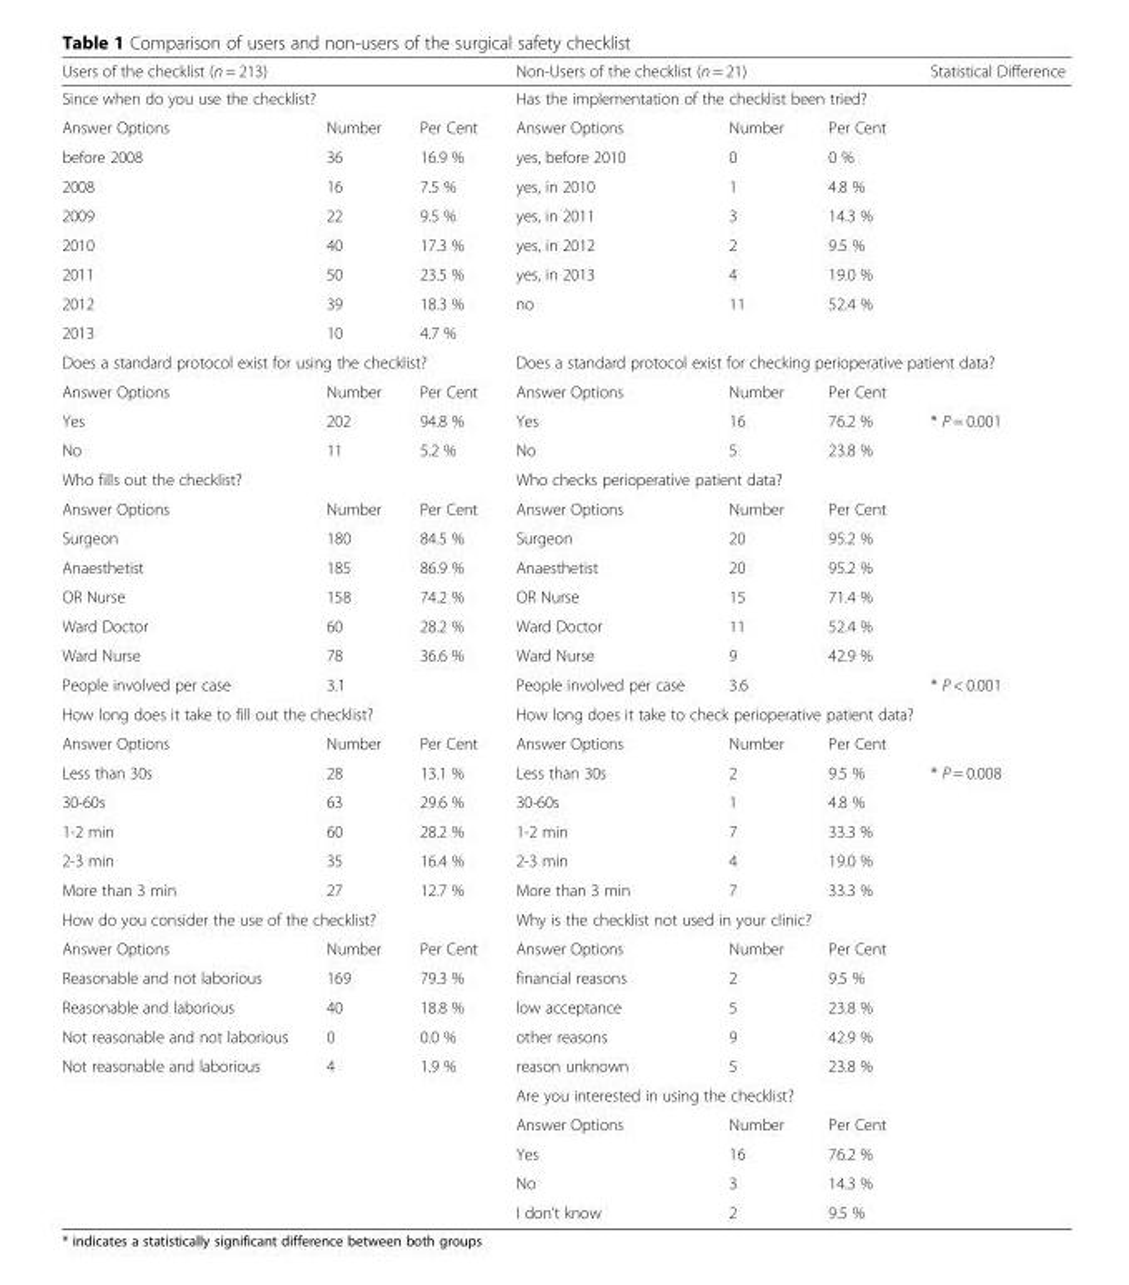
<table><thead><tr><td rowspan="2" colspan="3">Users of the checklist (n = 213) Since when do you use the checklist?</td><td colspan="3">Non-Users of the checklist (n = 21)</td><td>Statistical Difference</td></tr><tr><td colspan="4">Has the implementation of the checklist been tried?</td></tr><tr><td>Answer Options</td><td>Number</td><td>Per Cent</td><td>Answer Options</td><td>Number</td><td>Per Cent</td><td></td></tr></thead><tbody><tr><td>before 2008</td><td>36</td><td>16.9 %</td><td>yes, before 2010</td><td>0</td><td>0 %</td><td></td></tr><tr><td>2008</td><td>16</td><td>7.5 %</td><td>yes, in 2010</td><td>1</td><td>4.8 %</td><td></td></tr><tr><td>2009</td><td>22</td><td>9.5 %</td><td>yes, in 2011</td><td>3</td><td>14.3 %</td><td></td></tr><tr><td>2010</td><td>40</td><td>17.3 %</td><td>yes, in 2012</td><td>2</td><td>9.5 %</td><td></td></tr><tr><td>2011</td><td>50</td><td>23.5 %</td><td>yes, in 2013</td><td>4</td><td>19.0 %</td><td></td></tr><tr><td>2012</td><td>39</td><td>18.3 %</td><td>no</td><td>11</td><td>52.4 %</td><td></td></tr><tr><td>2013</td><td>10</td><td>4.7 %</td><td></td><td></td><td></td><td></td></tr><tr><td colspan="3">Does a standard protocol exist for using the checklist?</td><td colspan="4">Does a standard protocol exist for checking perioperative patient data?</td></tr><tr><td>Answer Options</td><td>Number</td><td>Per Cent</td><td>Answer Options</td><td>Number</td><td>Per Cent</td><td></td></tr><tr><td>Yes</td><td>202</td><td>94.8 %</td><td>Yes</td><td>16</td><td>76.2 %</td><td rowspan="2">* P = 0.001</td></tr><tr><td>No</td><td>11</td><td>5.2 %</td><td>No</td><td>5</td><td>23.8 %</td></tr><tr><td colspan="2">Who fills out the checklist?</td><td></td><td colspan="3">Who checks perioperative patient data?</td><td></td></tr><tr><td>Answer Options</td><td>Number</td><td>Per Cent</td><td>Answer Options</td><td>Number</td><td>Per Cent</td><td></td></tr><tr><td>Surgeon</td><td>180</td><td>84.5 %</td><td>Surgeon</td><td>20</td><td>95.2 %</td><td></td></tr><tr><td>Anaesthetist</td><td>185</td><td>86.9 %</td><td>Anaesthetist</td><td>20</td><td>95.2 %</td><td></td></tr><tr><td>OR Nurse</td><td>158</td><td>74.2 %</td><td>OR Nurse</td><td>15</td><td>71.4 %</td><td></td></tr><tr><td>Ward Doctor</td><td>60</td><td>28.2 %</td><td>Ward Doctor</td><td>11</td><td>52.4 %</td><td></td></tr><tr><td>Ward Nurse</td><td>78</td><td>36.6 %</td><td>Ward Nurse</td><td>9</td><td>42.9 %</td><td></td></tr><tr><td>People involved per case</td><td>3.1</td><td></td><td>People involved per case</td><td>3.6</td><td></td><td>* P &lt; 0.001</td></tr><tr><td colspan="3">How long does it take to fill out the checklist?</td><td colspan="4">How long does it take to check perioperative patient data?</td></tr><tr><td>Answer Options</td><td>Number</td><td>Per Cent</td><td>Answer Options</td><td>Number</td><td>Per Cent</td><td></td></tr><tr><td>Less than 30s</td><td>28</td><td>13.1 %</td><td>Less than 30s</td><td>2</td><td>9.5 %</td><td rowspan="5">* P = 0.008</td></tr><tr><td>30-60s</td><td>63</td><td>29.6 %</td><td>30-60s</td><td>1</td><td>4.8 %</td></tr><tr><td>1-2 min</td><td>60</td><td>28.2 %</td><td>1-2 min</td><td>7</td><td>33.3 %</td></tr><tr><td>2-3 min</td><td>35</td><td>16.4 %</td><td>2-3 min</td><td>4</td><td>19.0 %</td></tr><tr><td>More than 3 min</td><td>27</td><td>12.7 %</td><td>More than 3 min</td><td>7</td><td>33.3 %</td></tr><tr><td colspan="3">How do you consider the use of the checklist?</td><td colspan="4">Why is the checklist not used in your clinic?</td></tr><tr><td>Answer Options</td><td>Number</td><td>Per Cent</td><td>Answer Options</td><td>Number</td><td>Per Cent</td><td></td></tr><tr><td>Reasonable and not laborious</td><td>169</td><td>79.3 %</td><td>financial reasons</td><td>2</td><td>9.5 %</td><td></td></tr><tr><td>Reasonable and laborious</td><td>40</td><td>18.8 %</td><td>low acceptance</td><td>5</td><td>23.8 %</td><td></td></tr><tr><td>Not reasonable and not laborious</td><td>0</td><td>0.0 %</td><td>other reasons</td><td>9</td><td>42.9 %</td><td></td></tr><tr><td rowspan="6">Not reasonable and laborious</td><td>4</td><td>1.9 %</td><td>reason unknown</td><td>5</td><td>23.8 %</td><td></td></tr><tr><td></td><td></td><td colspan="3">Are you interested in using the checklist?</td><td></td></tr><tr><td></td><td></td><td>Answer Options</td><td>Number</td><td>Per Cent</td><td></td></tr><tr><td></td><td></td><td>Yes</td><td>16</td><td>76.2 %</td><td></td></tr><tr><td></td><td></td><td>No</td><td>3</td><td>14.3 %</td><td></td></tr><tr><td></td><td></td><td>I don’t know</td><td>2</td><td>9.5 %</td><td></td></tr></tbody></table>